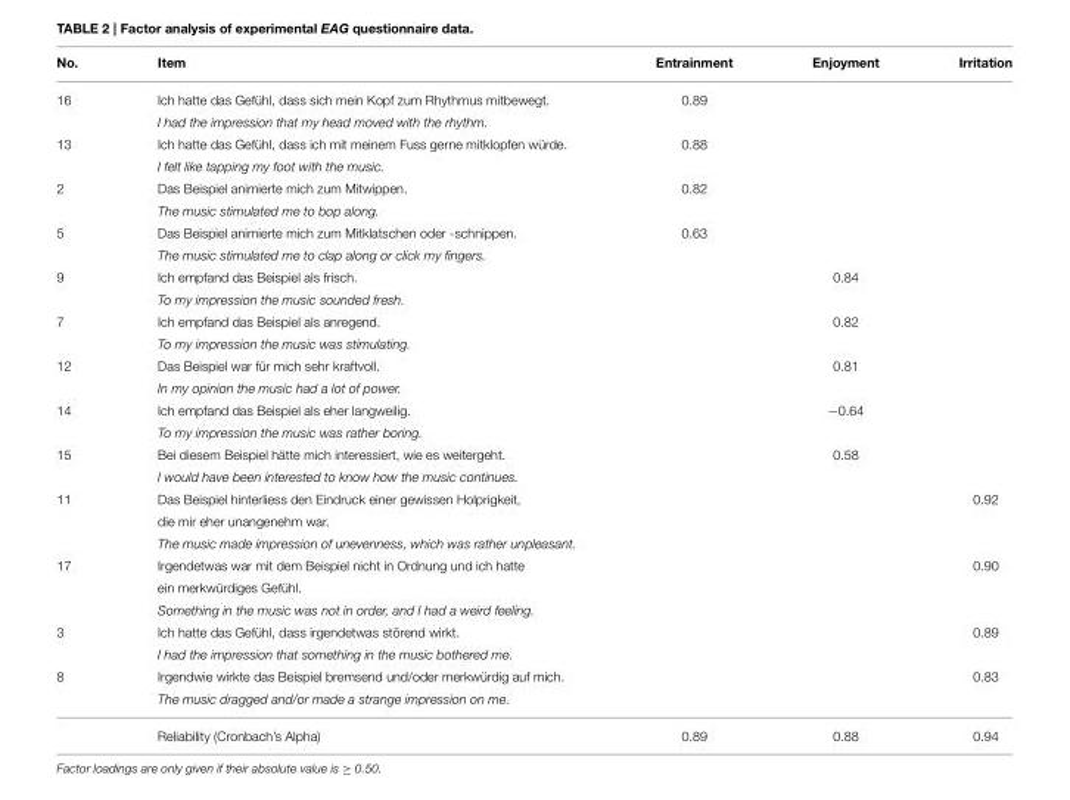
<table><thead><tr><td>No.</td><td>Item</td><td>Entrainment</td><td>Enjoyment</td><td>Irritation</td></tr></thead><tbody><tr><td rowspan="2">16</td><td>Ich hatte das Gefühl, dass sich mein Kopf zum Rhythmus mitbewegt.</td><td>0.89</td><td></td><td></td></tr><tr><td>I had the impression that my head moved with the rhythm.</td><td></td><td></td><td></td></tr><tr><td rowspan="2">13</td><td>Ich hatte das Gefühl, dass ich mit meinem Fuss gerne mitklopfen würde.</td><td>0.88</td><td></td><td></td></tr><tr><td>I felt like tapping my foot with the music.</td><td></td><td></td><td></td></tr><tr><td rowspan="2">2</td><td>Das Beispiel animierte mich zum Mitwippen.</td><td>0.82</td><td></td><td></td></tr><tr><td>The music stimulated me to bop along.</td><td></td><td></td><td></td></tr><tr><td rowspan="2">5</td><td>Das Beispiel animierte mich zum Mitklatschen oder -schnippen.</td><td>0.63</td><td></td><td></td></tr><tr><td>The music stimulated me to clap along or click my fingers.</td><td></td><td></td><td></td></tr><tr><td rowspan="2">9</td><td>Ich empfand das Beispiel als frisch.</td><td></td><td>0.84</td><td></td></tr><tr><td>To my impression the music sounded fresh.</td><td></td><td></td><td></td></tr><tr><td rowspan="2">7</td><td>Ich empfand das Beispiel als anregend.</td><td></td><td>0.82</td><td></td></tr><tr><td>To my impression the music was stimulating.</td><td></td><td></td><td></td></tr><tr><td rowspan="2">12</td><td>Das Beispiel war für mich sehr kraftvoll.</td><td></td><td>0.81</td><td></td></tr><tr><td>In my opinion the music had a lot of power.</td><td></td><td></td><td></td></tr><tr><td rowspan="2">14</td><td>Ich empfand das Beispiel als eher langweilig.</td><td></td><td>−0.64</td><td></td></tr><tr><td>To my impression the music was rather boring.</td><td></td><td></td><td></td></tr><tr><td rowspan="2">15</td><td>Bei diesem Beispiel hätte mich interessiert, wie es weitergeht.</td><td></td><td>0.58</td><td></td></tr><tr><td>I would have been interested to know how the music continues.</td><td></td><td></td><td></td></tr><tr><td rowspan="3">11</td><td>Das Beispiel hinterliess den Eindruck einer gewissen Holprigkeit,</td><td></td><td></td><td>0.92</td></tr><tr><td>die mir eher unangenehm war.</td><td></td><td></td><td></td></tr><tr><td>The music made impression of unevenness, which was rather unpleasant.</td><td></td><td></td><td></td></tr><tr><td rowspan="3">17</td><td>Irgendetwas war mit dem Beispiel nicht in Ordnung und ich hatte</td><td></td><td></td><td>0.90</td></tr><tr><td>ein merkwürdiges Gefühl.</td><td></td><td></td><td></td></tr><tr><td>Something in the music was not in order, and I had a weird feeling.</td><td></td><td></td><td></td></tr><tr><td rowspan="2">3</td><td>Ich hatte das Gefühl, dass irgendetwas störend wirkt.</td><td></td><td></td><td>0.89</td></tr><tr><td>I had the impression that something in the music bothered me.</td><td></td><td></td><td></td></tr><tr><td rowspan="3">8</td><td>Irgendwie wirkte das Beispiel bremsend und/oder merkwürdig auf mich.</td><td></td><td></td><td>0.83</td></tr><tr><td>The music dragged and/or made a strange impression on me.</td><td></td><td></td><td></td></tr><tr><td>Reliability (Cronbach’s Alpha)</td><td>0.89</td><td>0.88</td><td>0.94</td></tr></tbody></table>